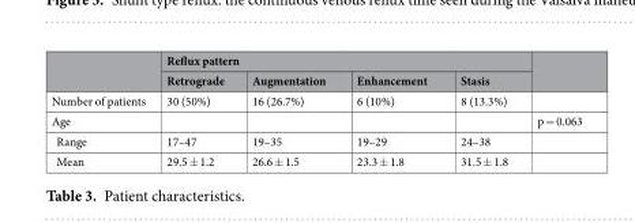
<table><thead><tr><td rowspan="2"></td><td colspan="4">Reflux pattern</td><td rowspan="2"></td></tr><tr><td>Retrograde</td><td>Augmentation</td><td>Enhancement</td><td>Stasis</td></tr></thead><tbody><tr><td>Number of patients</td><td>30 (50%)</td><td>16 (26.7%)</td><td>6 (10%)</td><td>8 (13.3%)</td><td></td></tr><tr><td>Age</td><td></td><td></td><td></td><td></td><td>p = 0.063</td></tr><tr><td>Range</td><td>17–47</td><td>19–35</td><td>19–29</td><td>24–38</td><td></td></tr><tr><td>Mean</td><td>29.5 ± 1.2</td><td>26.6 ± 1.5</td><td>23.3 ± 1.8</td><td>31.5 ± 1.8</td><td></td></tr></tbody></table>